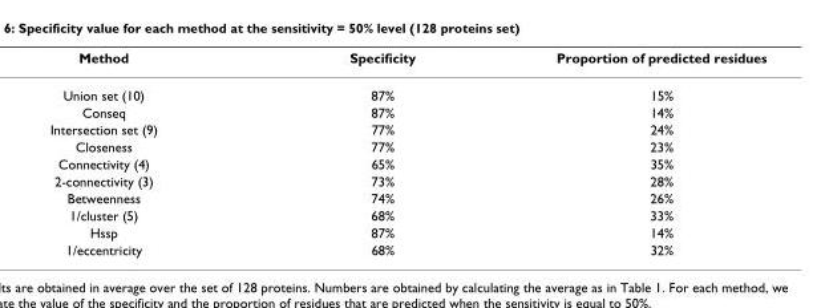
<table><thead><tr><td>Method</td><td>Specificity</td><td>Proportion of predicted residues</td></tr></thead><tbody><tr><td>Union set (10)</td><td>87%</td><td>15%</td></tr><tr><td>Conseq</td><td>87%</td><td>14%</td></tr><tr><td>Intersection set (9)</td><td>77%</td><td>24%</td></tr><tr><td>Closeness</td><td>77%</td><td>23%</td></tr><tr><td>Connectivity (4)</td><td>65%</td><td>35%</td></tr><tr><td>2-connectivity (3)</td><td>73%</td><td>28%</td></tr><tr><td>Betweenness</td><td>74%</td><td>26%</td></tr><tr><td>1/cluster (5)</td><td>68%</td><td>33%</td></tr><tr><td>Hssp</td><td>87%</td><td>14%</td></tr><tr><td>1/eccentricity</td><td>68%</td><td>32%</td></tr></tbody></table>